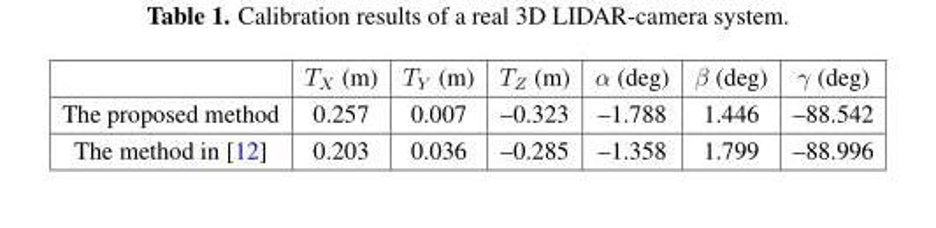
<table><thead><tr><td></td><td>T<sub>X</sub> (m)</td><td>T<sub>Y</sub> (m)</td><td>T<sub>Z</sub> (m)</td><td>α (deg)</td><td>β (deg)</td><td>γ (deg)</td></tr></thead><tbody><tr><td>The proposed method</td><td>0.257</td><td>0.007</td><td>–0.323</td><td>–1.788</td><td>1.446</td><td>–88.542</td></tr><tr><td>The method in [12]</td><td>0.203</td><td>0.036</td><td>–0.285</td><td>–1.358</td><td>1.799</td><td>–88.996</td></tr></tbody></table>